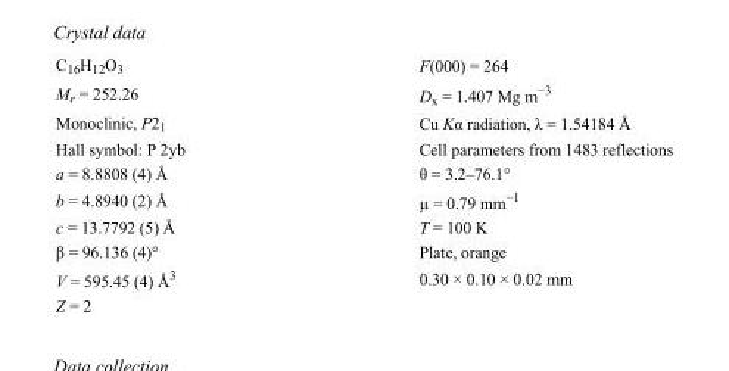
<table><tbody><tr><td>C<sub>16</sub>H<sub>12</sub>O<sub>3</sub></td><td>F(000) = 264</td></tr><tr><td>M<sub>r</sub> = 252.26</td><td>D<sub>x</sub> = 1.407 Mg m<sup>−3</sup></td></tr><tr><td>Monoclinic, P2<sub>1</sub></td><td>Cu Kα radiation, λ = 1.54184 Å</td></tr><tr><td>Hall symbol: P 2yb</td><td>Cell parameters from 1483 reflections</td></tr><tr><td>a = 8.8808 (4) Å</td><td>θ = 3.2–76.1°</td></tr><tr><td>b = 4.8940 (2) Å</td><td>µ = 0.79 mm<sup>−1</sup></td></tr><tr><td>c = 13.7792 (5) Å</td><td>T = 100 K</td></tr><tr><td>β = 96.136 (4)°</td><td>Plate, orange</td></tr><tr><td>V = 595.45 (4) Å<sup>3</sup></td><td>0.30 × 0.10 × 0.02 mm</td></tr><tr><td>Z = 2</td><td></td></tr></tbody></table>